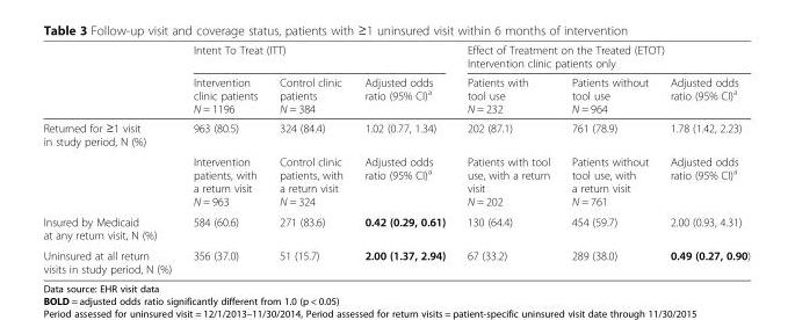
<table><thead><tr><td rowspan="2"></td><td colspan="3">Intent To Treat (ITT)</td><td colspan="3">Effect of Treatment on the Treated (ETOT) Intervention clinic patients only</td></tr><tr><td>Intervention clinic patients N = 1196</td><td>Control clinic patients N = 384</td><td>Adjusted odds ratio (95% CI)<sup>a</sup></td><td>Patients with tool use N = 232</td><td>Patients without tool use N = 964</td><td>Adjusted odds ratio (95% CI)<sup>a</sup></td></tr></thead><tbody><tr><td rowspan="2">Returned for ≥1 visit in study period, N (%)</td><td>963 (80.5)</td><td>324 (84.4)</td><td>1.02 (0.77, 1.34)</td><td>202 (87.1)</td><td>761 (78.9)</td><td>1.78 (1.42, 2.23)</td></tr><tr><td>Intervention patients, with a return visit N = 963</td><td>Control clinic patients, with a return visit N = 324</td><td>Adjusted odds ratio (95% CI)<sup>a</sup></td><td>Patients with tool use, with a return visit N = 202</td><td>Patients without tool use, with a return visit N = 761</td><td>Adjusted odds ratio (95% CI)<sup>a</sup></td></tr><tr><td>Insured by Medicaid at any return visit, N (%)</td><td>584 (60.6)</td><td>271 (83.6)</td><td>0.42 (0.29, 0.61)</td><td>130 (64.4)</td><td>454 (59.7)</td><td>2.00 (0.93, 4.31)</td></tr><tr><td>Uninsured at all return visits in study period, N (%)</td><td>356 (37.0)</td><td>51 (15.7)</td><td>2.00 (1.37, 2.94)</td><td>67 (33.2)</td><td>289 (38.0)</td><td>0.49 (0.27, 0.90)</td></tr></tbody></table>